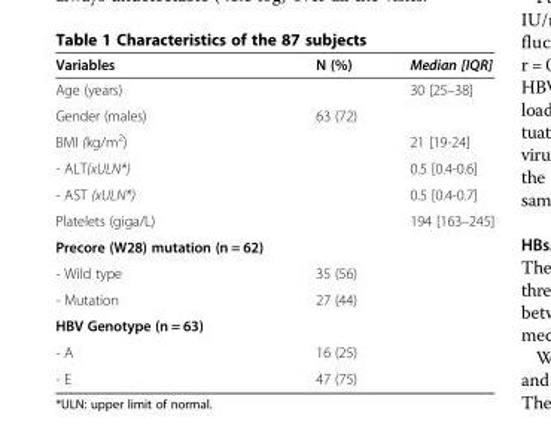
<table><thead><tr><td>Variables</td><td>N (%)</td><td>Median [IQR]</td></tr></thead><tbody><tr><td>Age (years)</td><td></td><td>30 [25–38]</td></tr><tr><td>Gender (males)</td><td>63 (72)</td><td></td></tr><tr><td>BMI (kg/m<sup>2</sup>)</td><td></td><td>21 [19-24]</td></tr><tr><td>- ALT(xULN*)</td><td></td><td>0.5 [0.4-0.6]</td></tr><tr><td>- AST (xULN*)</td><td></td><td>0.5 [0.4-0.7]</td></tr><tr><td>Platelets (giga/L)</td><td></td><td>194 [163–245]</td></tr><tr><td colspan="3">Precore (W28) mutation (n = 62)</td></tr><tr><td>- Wild type</td><td>35 (56)</td><td></td></tr><tr><td>- Mutation</td><td>27 (44)</td><td></td></tr><tr><td colspan="3">HBV Genotype (n = 63)</td></tr><tr><td>- A</td><td>16 (25)</td><td></td></tr><tr><td>- E</td><td>47 (75)</td><td></td></tr></tbody></table>